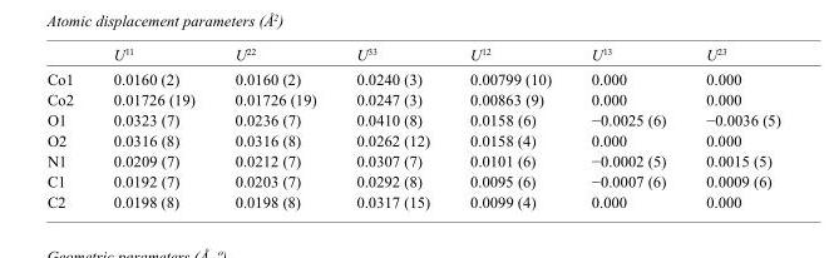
<table><thead><tr><td></td><td>U<sup>11</sup></td><td>U<sup>22</sup></td><td>U<sup>33</sup></td><td>U<sup>12</sup></td><td>U<sup>13</sup></td><td>U<sup>23</sup></td></tr></thead><tbody><tr><td>Co1</td><td>0.0160 (2)</td><td>0.0160 (2)</td><td>0.0240 (3)</td><td>0.00799 (10)</td><td>0.000</td><td>0.000</td></tr><tr><td>Co2</td><td>0.01726 (19)</td><td>0.01726 (19)</td><td>0.0247 (3)</td><td>0.00863 (9)</td><td>0.000</td><td>0.000</td></tr><tr><td>O1</td><td>0.0323 (7)</td><td>0.0236 (7)</td><td>0.0410 (8)</td><td>0.0158 (6)</td><td>−0.0025 (6)</td><td>−0.0036 (5)</td></tr><tr><td>O2</td><td>0.0316 (8)</td><td>0.0316 (8)</td><td>0.0262 (12)</td><td>0.0158 (4)</td><td>0.000</td><td>0.000</td></tr><tr><td>N1</td><td>0.0209 (7)</td><td>0.0212 (7)</td><td>0.0307 (7)</td><td>0.0101 (6)</td><td>−0.0002 (5)</td><td>0.0015 (5)</td></tr><tr><td>C1</td><td>0.0192 (7)</td><td>0.0203 (7)</td><td>0.0292 (8)</td><td>0.0095 (6)</td><td>−0.0007 (6)</td><td>0.0009 (6)</td></tr><tr><td>C2</td><td>0.0198 (8)</td><td>0.0198 (8)</td><td>0.0317 (15)</td><td>0.0099 (4)</td><td>0.000</td><td>0.000</td></tr></tbody></table>